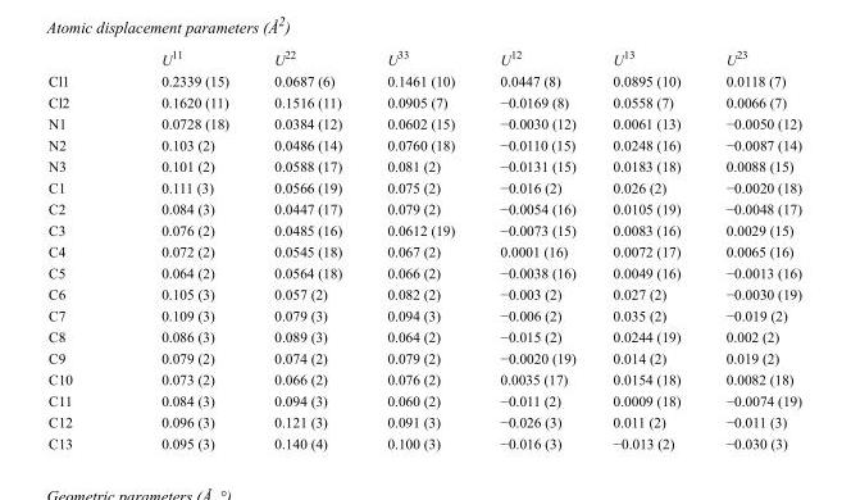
<table><thead><tr><td></td><td>U<sup>11</sup></td><td>U<sup>22</sup></td><td>U<sup>33</sup></td><td>U<sup>12</sup></td><td>U<sup>13</sup></td><td>U<sup>23</sup></td></tr></thead><tbody><tr><td>Cl1</td><td>0.2339 (15)</td><td>0.0687 (6)</td><td>0.1461 (10)</td><td>0.0447 (8)</td><td>0.0895 (10)</td><td>0.0118 (7)</td></tr><tr><td>Cl2</td><td>0.1620 (11)</td><td>0.1516 (11)</td><td>0.0905 (7)</td><td>−0.0169 (8)</td><td>0.0558 (7)</td><td>0.0066 (7)</td></tr><tr><td>N1</td><td>0.0728 (18)</td><td>0.0384 (12)</td><td>0.0602 (15)</td><td>−0.0030 (12)</td><td>0.0061 (13)</td><td>−0.0050 (12)</td></tr><tr><td>N2</td><td>0.103 (2)</td><td>0.0486 (14)</td><td>0.0760 (18)</td><td>−0.0110 (15)</td><td>0.0248 (16)</td><td>−0.0087 (14)</td></tr><tr><td>N3</td><td>0.101 (2)</td><td>0.0588 (17)</td><td>0.081 (2)</td><td>−0.0131 (15)</td><td>0.0183 (18)</td><td>0.0088 (15)</td></tr><tr><td>C1</td><td>0.111 (3)</td><td>0.0566 (19)</td><td>0.075 (2)</td><td>−0.016 (2)</td><td>0.026 (2)</td><td>−0.0020 (18)</td></tr><tr><td>C2</td><td>0.084 (3)</td><td>0.0447 (17)</td><td>0.079 (2)</td><td>−0.0054 (16)</td><td>0.0105 (19)</td><td>−0.0048 (17)</td></tr><tr><td>C3</td><td>0.076 (2)</td><td>0.0485 (16)</td><td>0.0612 (19)</td><td>−0.0073 (15)</td><td>0.0083 (16)</td><td>0.0029 (15)</td></tr><tr><td>C4</td><td>0.072 (2)</td><td>0.0545 (18)</td><td>0.067 (2)</td><td>0.0001 (16)</td><td>0.0072 (17)</td><td>0.0065 (16)</td></tr><tr><td>C5</td><td>0.064 (2)</td><td>0.0564 (18)</td><td>0.066 (2)</td><td>−0.0038 (16)</td><td>0.0049 (16)</td><td>−0.0013 (16)</td></tr><tr><td>C6</td><td>0.105 (3)</td><td>0.057 (2)</td><td>0.082 (2)</td><td>−0.003 (2)</td><td>0.027 (2)</td><td>−0.0030 (19)</td></tr><tr><td>C7</td><td>0.109 (3)</td><td>0.079 (3)</td><td>0.094 (3)</td><td>−0.006 (2)</td><td>0.035 (2)</td><td>−0.019 (2)</td></tr><tr><td>C8</td><td>0.086 (3)</td><td>0.089 (3)</td><td>0.064 (2)</td><td>−0.015 (2)</td><td>0.0244 (19)</td><td>0.002 (2)</td></tr><tr><td>C9</td><td>0.079 (2)</td><td>0.074 (2)</td><td>0.079 (2)</td><td>−0.0020 (19)</td><td>0.014 (2)</td><td>0.019 (2)</td></tr><tr><td>C10</td><td>0.073 (2)</td><td>0.066 (2)</td><td>0.076 (2)</td><td>0.0035 (17)</td><td>0.0154 (18)</td><td>0.0082 (18)</td></tr><tr><td>C11</td><td>0.084 (3)</td><td>0.094 (3)</td><td>0.060 (2)</td><td>−0.011 (2)</td><td>0.0009 (18)</td><td>−0.0074 (19)</td></tr><tr><td>C12</td><td>0.096 (3)</td><td>0.121 (3)</td><td>0.091 (3)</td><td>−0.026 (3)</td><td>0.011 (2)</td><td>−0.011 (3)</td></tr><tr><td>C13</td><td>0.095 (3)</td><td>0.140 (4)</td><td>0.100 (3)</td><td>−0.016 (3)</td><td>−0.013 (2)</td><td>−0.030 (3)</td></tr></tbody></table>